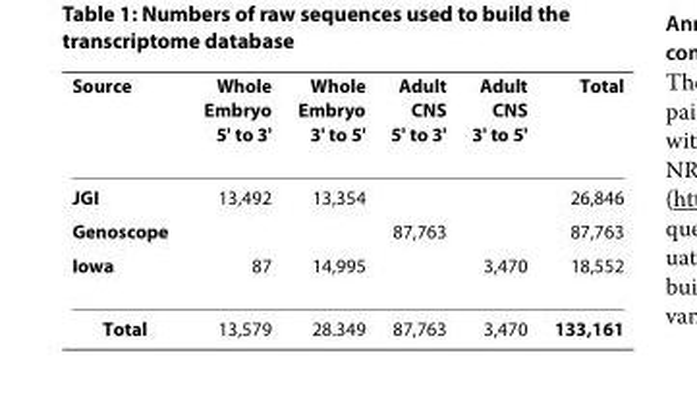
<table><thead><tr><td>Source</td><td>Whole Embryo 5&#x27; to 3&#x27;</td><td>Whole Embryo 3&#x27; to 5&#x27;</td><td>Adult CNS 5&#x27; to 3&#x27;</td><td>Adult CNS 3&#x27; to 5&#x27;</td><td>Total</td></tr></thead><tbody><tr><td>JGI</td><td>13,492</td><td>13,354</td><td></td><td></td><td>26,846</td></tr><tr><td>Genoscope</td><td></td><td></td><td>87,763</td><td></td><td>87,763</td></tr><tr><td>Iowa</td><td>87</td><td>14,995</td><td></td><td>3,470</td><td>18,552</td></tr><tr><td>Total</td><td>13,579</td><td>28.349</td><td>87,763</td><td>3,470</td><td>133,161</td></tr></tbody></table>